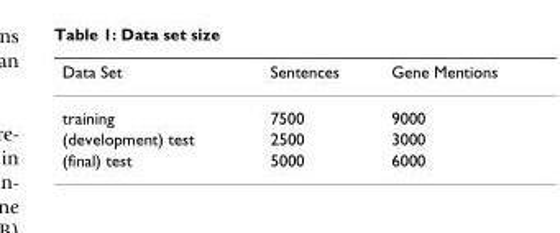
<table><thead><tr><td>Data Set</td><td>Sentences</td><td>Gene Mentions</td></tr></thead><tbody><tr><td>training</td><td>7500</td><td>9000</td></tr><tr><td>(development) test</td><td>2500</td><td>3000</td></tr><tr><td>(final) test</td><td>5000</td><td>6000</td></tr></tbody></table>